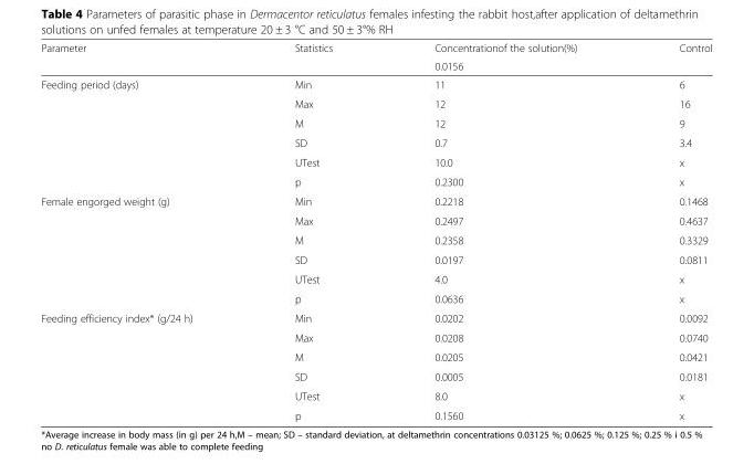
<table><thead><tr><td rowspan="2">Parameter</td><td rowspan="2">Statistics</td><td rowspan="2">Concentrationof the solution(%) 0.0156</td><td rowspan="2">Control</td></tr><tr></tr></thead><tbody><tr><td rowspan="6">Feeding period (days)</td><td>Min</td><td>11</td><td>6</td></tr><tr><td>Max</td><td>12</td><td>16</td></tr><tr><td>M</td><td>12</td><td>9</td></tr><tr><td>SD</td><td>0.7</td><td>3.4</td></tr><tr><td>UTest</td><td>10.0</td><td>x</td></tr><tr><td>p</td><td>0.2300</td><td>x</td></tr><tr><td rowspan="6">Female engorged weight (g)</td><td>Min</td><td>0.2218</td><td>0.1468</td></tr><tr><td>Max</td><td>0.2497</td><td>0.4637</td></tr><tr><td>M</td><td>0.2358</td><td>0.3329</td></tr><tr><td>SD</td><td>0.0197</td><td>0.0811</td></tr><tr><td>UTest</td><td>4.0</td><td>x</td></tr><tr><td>p</td><td>0.0636</td><td>x</td></tr><tr><td rowspan="6">Feeding efficiency index* (g/24 h)</td><td>Min</td><td>0.0202</td><td>0.0092</td></tr><tr><td>Max</td><td>0.0208</td><td>0.0740</td></tr><tr><td>M</td><td>0.0205</td><td>0.0421</td></tr><tr><td>SD</td><td>0.0005</td><td>0.0181</td></tr><tr><td>UTest</td><td>8.0</td><td>x</td></tr><tr><td>p</td><td>0.1560</td><td>x</td></tr></tbody></table>